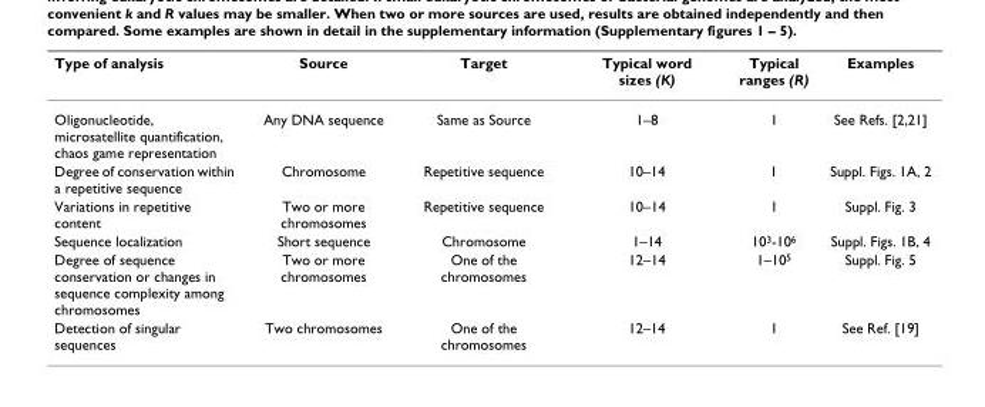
<table><thead><tr><td>Type of analysis</td><td>Source</td><td>Target</td><td>Typical word sizes (K)</td><td>Typical ranges (R)</td><td>Examples</td></tr></thead><tbody><tr><td>Oligonucleotide, microsatellite quantification, chaos game representation</td><td>Any DNA sequence</td><td>Same as Source</td><td>1–8</td><td>1</td><td>See Refs. [2,21]</td></tr><tr><td>Degree of conservation within a repetitive sequence</td><td>Chromosome</td><td>Repetitive sequence</td><td>10–14</td><td>1</td><td>Suppl. Figs. 1A, 2</td></tr><tr><td>Variations in repetitive content</td><td>Two or more chromosomes</td><td>Repetitive sequence</td><td>10–14</td><td>1</td><td>Suppl. Fig. 3</td></tr><tr><td>Sequence localization</td><td>Short sequence</td><td>Chromosome</td><td>1–14</td><td>10<sup>3</sup>-10<sup>6</sup></td><td>Suppl. Figs. 1B, 4</td></tr><tr><td>Degree of sequence conservation or changes in sequence complexity among chromosomes</td><td>Two or more chromosomes</td><td>One of the chromosomes</td><td>12–14</td><td>1–10<sup>5</sup></td><td>Suppl. Fig. 5</td></tr><tr><td>Detection of singular sequences</td><td>Two chromosomes</td><td>One of the chromosomes</td><td>12–14</td><td>1</td><td>See Ref. [19]</td></tr></tbody></table>